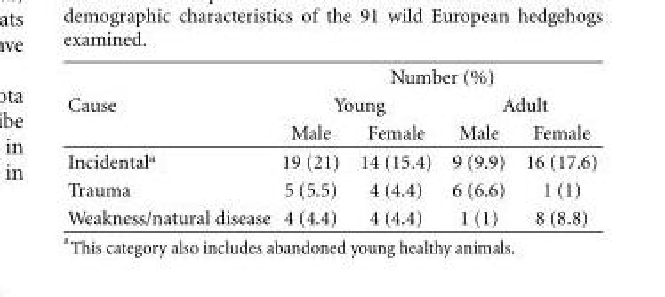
<table><thead><tr><td rowspan="3">Cause</td><td colspan="4">Number (%)</td></tr><tr><td colspan="2">Young</td><td colspan="2">Adult</td></tr><tr><td>Male</td><td>Female</td><td>Male</td><td>Female</td></tr></thead><tbody><tr><td>Incidental<sup>a</sup></td><td>19 (21)</td><td>14 (15.4)</td><td>9 (9.9)</td><td>16 (17.6)</td></tr><tr><td>Trauma</td><td>5 (5.5)</td><td>4 (4.4)</td><td>6 (6.6)</td><td>1 (1)</td></tr><tr><td>Weakness/natural disease</td><td>4 (4.4)</td><td>4 (4.4)</td><td>1 (1)</td><td>8 (8.8)</td></tr></tbody></table>